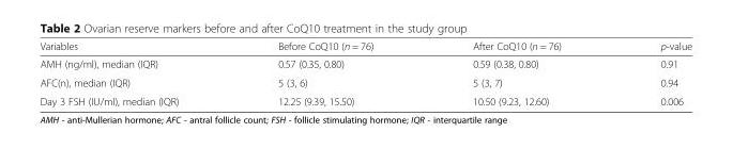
<table><thead><tr><td>Variables</td><td>Before CoQ10 (n = 76)</td><td>After CoQ10 (n = 76)</td><td>p-value</td></tr></thead><tbody><tr><td>AMH (ng/ml), median (IQR)</td><td>0.57 (0.35, 0.80)</td><td>0.59 (0.38, 0.80)</td><td>0.91</td></tr><tr><td>AFC(n), median (IQR)</td><td>5 (3, 6)</td><td>5 (3, 7)</td><td>0.94</td></tr><tr><td>Day 3 FSH (IU/ml), median (IQR)</td><td>12.25 (9.39, 15.50)</td><td>10.50 (9.23, 12.60)</td><td>0.006</td></tr></tbody></table>